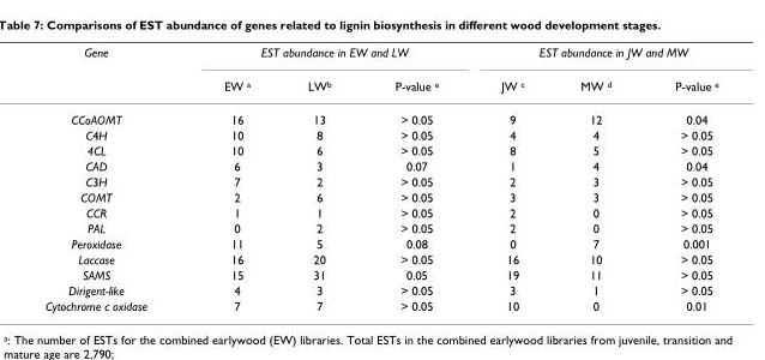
<table><thead><tr><td rowspan="2">Gene</td><td colspan="3">EST abundance in EW and LW</td><td colspan="3">EST abundance in JW and MW</td></tr><tr><td>EW <sup>a</sup></td><td>LW<sup>b</sup></td><td>P-value <sup>e</sup></td><td>JW <sup>c</sup></td><td>MW <sup>d</sup></td><td>P-value <sup>e</sup></td></tr></thead><tbody><tr><td>CCoAOMT</td><td>16</td><td>13</td><td>&gt; 0.05</td><td>9</td><td>12</td><td>0.04</td></tr><tr><td>C4H</td><td>10</td><td>8</td><td>&gt; 0.05</td><td>4</td><td>4</td><td>&gt; 0.05</td></tr><tr><td>4CL</td><td>10</td><td>6</td><td>&gt; 0.05</td><td>8</td><td>5</td><td>&gt; 0.05</td></tr><tr><td>CAD</td><td>6</td><td>3</td><td>0.07</td><td>1</td><td>4</td><td>0.04</td></tr><tr><td>C3H</td><td>7</td><td>2</td><td>&gt; 0.05</td><td>2</td><td>3</td><td>&gt; 0.05</td></tr><tr><td>COMT</td><td>2</td><td>6</td><td>&gt; 0.05</td><td>3</td><td>3</td><td>&gt; 0.05</td></tr><tr><td>CCR</td><td>1</td><td>1</td><td>&gt; 0.05</td><td>2</td><td>0</td><td>&gt; 0.05</td></tr><tr><td>PAL</td><td>0</td><td>2</td><td>&gt; 0.05</td><td>2</td><td>0</td><td>&gt; 0.05</td></tr><tr><td>Peroxidase</td><td>11</td><td>5</td><td>0.08</td><td>0</td><td>7</td><td>0.001</td></tr><tr><td>Laccase</td><td>16</td><td>20</td><td>&gt; 0.05</td><td>16</td><td>10</td><td>&gt; 0.05</td></tr><tr><td>SAMS</td><td>15</td><td>31</td><td>0.05</td><td>19</td><td>11</td><td>&gt; 0.05</td></tr><tr><td>Dirigent-like</td><td>4</td><td>3</td><td>&gt; 0.05</td><td>3</td><td>1</td><td>&gt; 0.05</td></tr><tr><td>Cytochrome c oxidase</td><td>7</td><td>7</td><td>&gt; 0.05</td><td>10</td><td>0</td><td>0.01</td></tr></tbody></table>